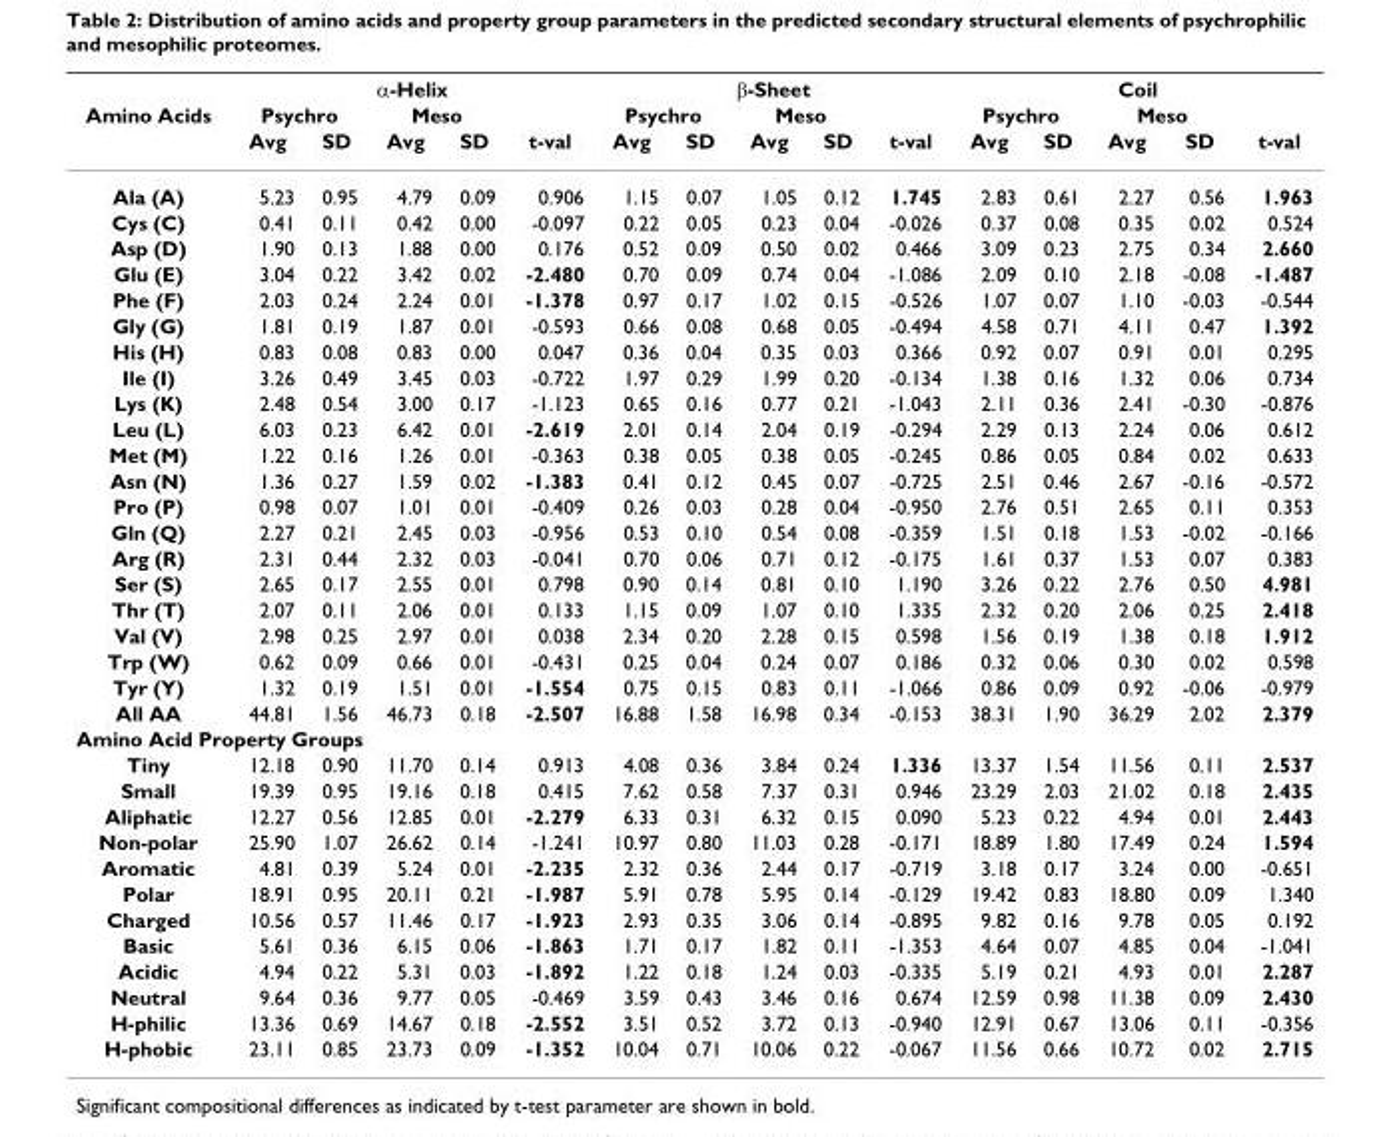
<table><thead><tr><td rowspan="3">Amino Acids</td><td colspan="5">α-Helix</td><td colspan="5">β-Sheet</td><td colspan="5">Coil</td></tr><tr><td colspan="2">Psychro</td><td colspan="2">Meso</td><td rowspan="2">t-val</td><td colspan="2">Psychro</td><td colspan="2">Meso</td><td rowspan="2">t-val</td><td colspan="2">Psychro</td><td colspan="2">Meso</td><td rowspan="2">t-val</td></tr><tr><td>Avg</td><td>SD</td><td>Avg</td><td>SD</td><td>Avg</td><td>SD</td><td>Avg</td><td>SD</td><td>Avg</td><td>SD</td><td>Avg</td><td>SD</td></tr></thead><tbody><tr><td>Ala (A)</td><td>5.23</td><td>0.95</td><td>4.79</td><td>0.09</td><td>0.906</td><td>1.15</td><td>0.07</td><td>1.05</td><td>0.12</td><td>1.745</td><td>2.83</td><td>0.61</td><td>2.27</td><td>0.56</td><td>1.963</td></tr><tr><td>Cys (C)</td><td>0.41</td><td>0.11</td><td>0.42</td><td>0.00</td><td>-0.097</td><td>0.22</td><td>0.05</td><td>0.23</td><td>0.04</td><td>-0.026</td><td>0.37</td><td>0.08</td><td>0.35</td><td>0.02</td><td>0.524</td></tr><tr><td>Asp (D)</td><td>1.90</td><td>0.13</td><td>1.88</td><td>0.00</td><td>0.176</td><td>0.52</td><td>0.09</td><td>0.50</td><td>0.02</td><td>0.466</td><td>3.09</td><td>0.23</td><td>2.75</td><td>0.34</td><td>2.660</td></tr><tr><td>Glu (E)</td><td>3.04</td><td>0.22</td><td>3.42</td><td>0.02</td><td>-2.480</td><td>0.70</td><td>0.09</td><td>0.74</td><td>0.04</td><td>-1.086</td><td>2.09</td><td>0.10</td><td>2.18</td><td>-0.08</td><td>-1.487</td></tr><tr><td>Phe (F)</td><td>2.03</td><td>0.24</td><td>2.24</td><td>0.01</td><td>-1.378</td><td>0.97</td><td>0.17</td><td>1.02</td><td>0.15</td><td>-0.526</td><td>1.07</td><td>0.07</td><td>1.10</td><td>-0.03</td><td>-0.544</td></tr><tr><td>Gly (G)</td><td>1.81</td><td>0.19</td><td>1.87</td><td>0.01</td><td>-0.593</td><td>0.66</td><td>0.08</td><td>0.68</td><td>0.05</td><td>-0.494</td><td>4.58</td><td>0.71</td><td>4.11</td><td>0.47</td><td>1.392</td></tr><tr><td>His (H)</td><td>0.83</td><td>0.08</td><td>0.83</td><td>0.00</td><td>0.047</td><td>0.36</td><td>0.04</td><td>0.35</td><td>0.03</td><td>0.366</td><td>0.92</td><td>0.07</td><td>0.91</td><td>0.01</td><td>0.295</td></tr><tr><td>Ile (I)</td><td>3.26</td><td>0.49</td><td>3.45</td><td>0.03</td><td>-0.722</td><td>1.97</td><td>0.29</td><td>1.99</td><td>0.20</td><td>-0.134</td><td>1.38</td><td>0.16</td><td>1.32</td><td>0.06</td><td>0.734</td></tr><tr><td>Lys (K)</td><td>2.48</td><td>0.54</td><td>3.00</td><td>0.17</td><td>-1.123</td><td>0.65</td><td>0.16</td><td>0.77</td><td>0.21</td><td>-1.043</td><td>2.11</td><td>0.36</td><td>2.41</td><td>-0.30</td><td>-0.876</td></tr><tr><td>Leu (L)</td><td>6.03</td><td>0.23</td><td>6.42</td><td>0.01</td><td>-2.619</td><td>2.01</td><td>0.14</td><td>2.04</td><td>0.19</td><td>-0.294</td><td>2.29</td><td>0.13</td><td>2.24</td><td>0.06</td><td>0.612</td></tr><tr><td>Met (M)</td><td>1.22</td><td>0.16</td><td>1.26</td><td>0.01</td><td>-0.363</td><td>0.38</td><td>0.05</td><td>0.38</td><td>0.05</td><td>-0.245</td><td>0.86</td><td>0.05</td><td>0.84</td><td>0.02</td><td>0.633</td></tr><tr><td>Asn (N)</td><td>1.36</td><td>0.27</td><td>1.59</td><td>0.02</td><td>-1.383</td><td>0.41</td><td>0.12</td><td>0.45</td><td>0.07</td><td>-0.725</td><td>2.51</td><td>0.46</td><td>2.67</td><td>-0.16</td><td>-0.572</td></tr><tr><td>Pro (P)</td><td>0.98</td><td>0.07</td><td>1.01</td><td>0.01</td><td>-0.409</td><td>0.26</td><td>0.03</td><td>0.28</td><td>0.04</td><td>-0.950</td><td>2.76</td><td>0.51</td><td>2.65</td><td>0.11</td><td>0.353</td></tr><tr><td>Gln (Q)</td><td>2.27</td><td>0.21</td><td>2.45</td><td>0.03</td><td>-0.956</td><td>0.53</td><td>0.10</td><td>0.54</td><td>0.08</td><td>-0.359</td><td>1.51</td><td>0.18</td><td>1.53</td><td>-0.02</td><td>-0.166</td></tr><tr><td>Arg (R)</td><td>2.31</td><td>0.44</td><td>2.32</td><td>0.03</td><td>-0.041</td><td>0.70</td><td>0.06</td><td>0.71</td><td>0.12</td><td>-0.175</td><td>1.61</td><td>0.37</td><td>1.53</td><td>0.07</td><td>0.383</td></tr><tr><td>Ser (S)</td><td>2.65</td><td>0.17</td><td>2.55</td><td>0.01</td><td>0.798</td><td>0.90</td><td>0.14</td><td>0.81</td><td>0.10</td><td>1.190</td><td>3.26</td><td>0.22</td><td>2.76</td><td>0.50</td><td>4.981</td></tr><tr><td>Thr (T)</td><td>2.07</td><td>0.11</td><td>2.06</td><td>0.01</td><td>0.133</td><td>1.15</td><td>0.09</td><td>1.07</td><td>0.10</td><td>1.335</td><td>2.32</td><td>0.20</td><td>2.06</td><td>0.25</td><td>2.418</td></tr><tr><td>Val (V)</td><td>2.98</td><td>0.25</td><td>2.97</td><td>0.01</td><td>0.038</td><td>2.34</td><td>0.20</td><td>2.28</td><td>0.15</td><td>0.598</td><td>1.56</td><td>0.19</td><td>1.38</td><td>0.18</td><td>1.912</td></tr><tr><td>Trp (W)</td><td>0.62</td><td>0.09</td><td>0.66</td><td>0.01</td><td>-0.431</td><td>0.25</td><td>0.04</td><td>0.24</td><td>0.07</td><td>0.186</td><td>0.32</td><td>0.06</td><td>0.30</td><td>0.02</td><td>0.598</td></tr><tr><td>Tyr (Y)</td><td>1.32</td><td>0.19</td><td>1.51</td><td>0.01</td><td>-1.554</td><td>0.75</td><td>0.15</td><td>0.83</td><td>0.11</td><td>-1.066</td><td>0.86</td><td>0.09</td><td>0.92</td><td>-0.06</td><td>-0.979</td></tr><tr><td>All AA</td><td>44.81</td><td>1.56</td><td>46.73</td><td>0.18</td><td>-2.507</td><td>16.88</td><td>1.58</td><td>16.98</td><td>0.34</td><td>-0.153</td><td>38.31</td><td>1.90</td><td>36.29</td><td>2.02</td><td>2.379</td></tr><tr><td colspan="16">Amino Acid Property Groups</td></tr><tr><td>Tiny</td><td>12.18</td><td>0.90</td><td>11.70</td><td>0.14</td><td>0.913</td><td>4.08</td><td>0.36</td><td>3.84</td><td>0.24</td><td>1.336</td><td>13.37</td><td>1.54</td><td>11.56</td><td>0.11</td><td>2.537</td></tr><tr><td>Small</td><td>19.39</td><td>0.95</td><td>19.16</td><td>0.18</td><td>0.415</td><td>7.62</td><td>0.58</td><td>7.37</td><td>0.31</td><td>0.946</td><td>23.29</td><td>2.03</td><td>21.02</td><td>0.18</td><td>2.435</td></tr><tr><td>Aliphatic</td><td>12.27</td><td>0.56</td><td>12.85</td><td>0.01</td><td>-2.279</td><td>6.33</td><td>0.31</td><td>6.32</td><td>0.15</td><td>0.090</td><td>5.23</td><td>0.22</td><td>4.94</td><td>0.01</td><td>2.443</td></tr><tr><td>Non-polar</td><td>25.90</td><td>1.07</td><td>26.62</td><td>0.14</td><td>-1.241</td><td>10.97</td><td>0.80</td><td>11.03</td><td>0.28</td><td>-0.171</td><td>18.89</td><td>1.80</td><td>17.49</td><td>0.24</td><td>1.594</td></tr><tr><td>Aromatic</td><td>4.81</td><td>0.39</td><td>5.24</td><td>0.01</td><td>-2.235</td><td>2.32</td><td>0.36</td><td>2.44</td><td>0.17</td><td>-0.719</td><td>3.18</td><td>0.17</td><td>3.24</td><td>0.00</td><td>-0.651</td></tr><tr><td>Polar</td><td>18.91</td><td>0.95</td><td>20.11</td><td>0.21</td><td>-1.987</td><td>5.91</td><td>0.78</td><td>5.95</td><td>0.14</td><td>-0.129</td><td>19.42</td><td>0.83</td><td>18.80</td><td>0.09</td><td>1.340</td></tr><tr><td>Charged</td><td>10.56</td><td>0.57</td><td>11.46</td><td>0.17</td><td>-1.923</td><td>2.93</td><td>0.35</td><td>3.06</td><td>0.14</td><td>-0.895</td><td>9.82</td><td>0.16</td><td>9.78</td><td>0.05</td><td>0.192</td></tr><tr><td>Basic</td><td>5.61</td><td>0.36</td><td>6.15</td><td>0.06</td><td>-1.863</td><td>1.71</td><td>0.17</td><td>1.82</td><td>0.11</td><td>-1.353</td><td>4.64</td><td>0.07</td><td>4.85</td><td>0.04</td><td>-1.041</td></tr><tr><td>Acidic</td><td>4.94</td><td>0.22</td><td>5.31</td><td>0.03</td><td>-1.892</td><td>1.22</td><td>0.18</td><td>1.24</td><td>0.03</td><td>-0.335</td><td>5.19</td><td>0.21</td><td>4.93</td><td>0.01</td><td>2.287</td></tr><tr><td>Neutral</td><td>9.64</td><td>0.36</td><td>9.77</td><td>0.05</td><td>-0.469</td><td>3.59</td><td>0.43</td><td>3.46</td><td>0.16</td><td>0.674</td><td>12.59</td><td>0.98</td><td>11.38</td><td>0.09</td><td>2.430</td></tr><tr><td>H-philic</td><td>13.36</td><td>0.69</td><td>14.67</td><td>0.18</td><td>-2.552</td><td>3.51</td><td>0.52</td><td>3.72</td><td>0.13</td><td>-0.940</td><td>12.91</td><td>0.67</td><td>13.06</td><td>0.11</td><td>-0.356</td></tr><tr><td>H-phobic</td><td>23.11</td><td>0.85</td><td>23.73</td><td>0.09</td><td>-1.352</td><td>10.04</td><td>0.71</td><td>10.06</td><td>0.22</td><td>-0.067</td><td>11.56</td><td>0.66</td><td>10.72</td><td>0.02</td><td>2.715</td></tr></tbody></table>